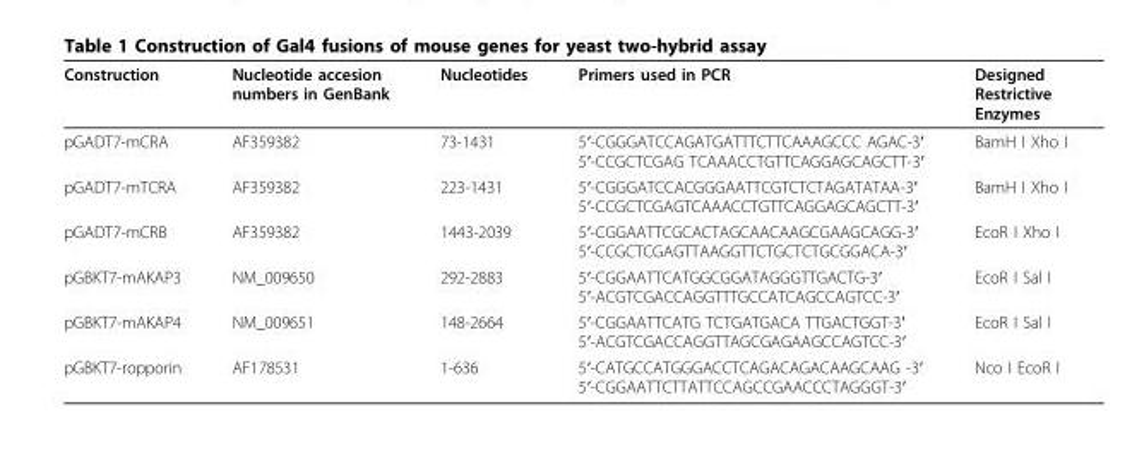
<table><thead><tr><td>Construction</td><td>Nucleotide accesion numbers in GenBank</td><td>Nucleotides</td><td>Primers used in PCR</td><td>Designed Restrictive Enzymes</td></tr></thead><tbody><tr><td>pGADT7-mCRA</td><td>AF359382</td><td>73-1431</td><td>5′-CGGGATCCAGATGATTTCTTCAAAGCCC AGAC-3′ 5′-CCGCTCGAG TCAAACCTGTTCAGGAGCAGCTT-3′</td><td>BamH I Xho I</td></tr><tr><td>pGADT7-mTCRA</td><td>AF359382</td><td>223-1431</td><td>5′-CGGGATCCACGGGAATTCGTCTCTAGATATAA-3′ 5′-CCGCTCGAGTCAAACCTGTTCAGGAGCAGCTT-3′</td><td>BamH I Xho I</td></tr><tr><td>pGADT7-mCRB</td><td>AF359382</td><td>1443-2039</td><td>5′-CGGAATTCGCACTAGCAACAAGCGAAGCAGG-3′ 5′-CCGCTCGAGTTAAGGTTCTGCTCTGCGGACA-3′</td><td>EcoR I Xho I</td></tr><tr><td>pGBKT7-mAKAP3</td><td>NM_009650</td><td>292-2883</td><td>5′-CGGAATTCATGGCGGATAGGGTTGACTG-3′ 5′-ACGTCGACCAGGTTTGCCATCAGCCAGTCC-3′</td><td>EcoR I Sal I</td></tr><tr><td>pGBKT7-mAKAP4</td><td>NM_009651</td><td>148-2664</td><td>5′-CGGAATTCATG TCTGATGACA TTGACTGGT-3′ 5′-ACGTCGACCAGGTTAGCGAGAAGCCAGTCC-3′</td><td>EcoR I Sal I</td></tr><tr><td>pGBKT7-ropporin</td><td>AF178531</td><td>1-636</td><td>5′-CATGCCATGGGACCTCAGACAGACAAGCAAG -3′ 5′-CGGAATTCTTATTCCAGCCGAACCCTAGGGT-3′</td><td>Nco I EcoR I</td></tr></tbody></table>